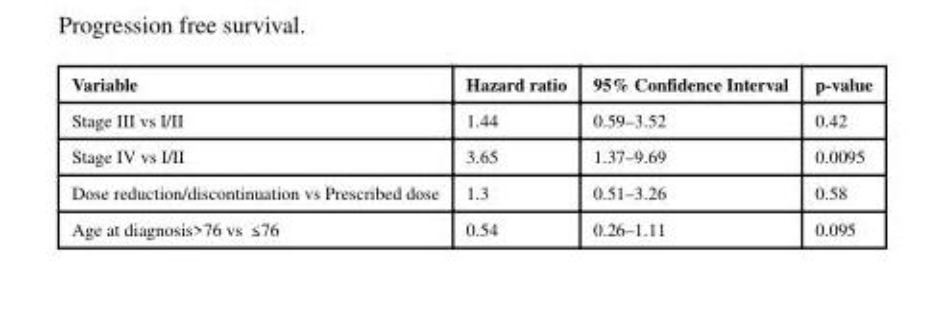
<table><thead><tr><td>Variable</td><td>Hazard ratio</td><td>95% Confidence Interval</td><td>p-value</td></tr></thead><tbody><tr><td>Stage III vs I/II</td><td>1.44</td><td>0.59–3.52</td><td>0.42</td></tr><tr><td>Stage IV vs I/II</td><td>3.65</td><td>1.37–9.69</td><td>0.0095</td></tr><tr><td>Dose reduction/discontinuation vs Prescribed dose</td><td>1.3</td><td>0.51–3.26</td><td>0.58</td></tr><tr><td>Age at diagnosis&gt;76 vs ≤ 76</td><td>0.54</td><td>0.26–1.11</td><td>0.095</td></tr></tbody></table>